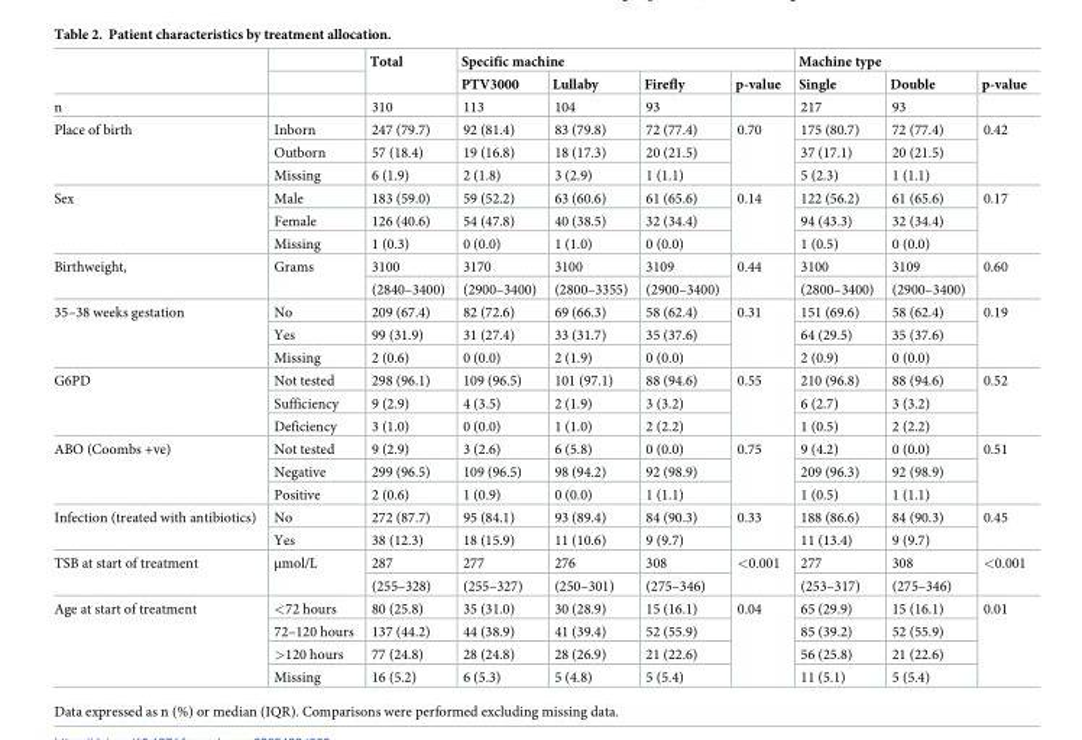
<table><thead><tr><td rowspan="2"></td><td rowspan="2"></td><td rowspan="2">Total</td><td colspan="4">Specific machine</td><td colspan="3">Machine type</td></tr><tr><td>PTV3000</td><td>Lullaby</td><td>Firefly</td><td>p-value</td><td>Single</td><td>Double</td><td>p-value</td></tr></thead><tbody><tr><td>n</td><td></td><td>310</td><td>113</td><td>104</td><td>93</td><td></td><td>217</td><td>93</td><td></td></tr><tr><td rowspan="3">Place of birth</td><td>Inborn</td><td>247 (79.7)</td><td>92 (81.4)</td><td>83 (79.8)</td><td>72 (77.4)</td><td rowspan="3">0.70</td><td>175 (80.7)</td><td>72 (77.4)</td><td rowspan="3">0.42</td></tr><tr><td>Outborn</td><td>57 (18.4)</td><td>19 (16.8)</td><td>18 (17.3)</td><td>20 (21.5)</td><td>37 (17.1)</td><td>20 (21.5)</td></tr><tr><td>Missing</td><td>6 (1.9)</td><td>2 (1.8)</td><td>3 (2.9)</td><td>1 (1.1)</td><td>5 (2.3)</td><td>1 (1.1)</td></tr><tr><td rowspan="3">Sex</td><td>Male</td><td>183 (59.0)</td><td>59 (52.2)</td><td>63 (60.6)</td><td>61 (65.6)</td><td rowspan="3">0.14</td><td>122 (56.2)</td><td>61 (65.6)</td><td rowspan="3">0.17</td></tr><tr><td>Female</td><td>126 (40.6)</td><td>54 (47.8)</td><td>40 (38.5)</td><td>32 (34.4)</td><td>94 (43.3)</td><td>32 (34.4)</td></tr><tr><td>Missing</td><td>1 (0.3)</td><td>0 (0.0)</td><td>1 (1.0)</td><td>0 (0.0)</td><td>1 (0.5)</td><td>0 (0.0)</td></tr><tr><td rowspan="2">Birthweight,</td><td rowspan="2">Grams</td><td>3100</td><td>3170</td><td>3100</td><td>3109</td><td rowspan="2">0.44</td><td>3100</td><td>3109</td><td rowspan="2">0.60</td></tr><tr><td>(2840–3400)</td><td>(2900–3400)</td><td>(2800–3355)</td><td>(2900–3400)</td><td>(2800–3400)</td><td>(2900–3400)</td></tr><tr><td rowspan="3">35–38 weeks gestation</td><td>No</td><td>209 (67.4)</td><td>82 (72.6)</td><td>69 (66.3)</td><td>58 (62.4)</td><td rowspan="3">0.31</td><td>151 (69.6)</td><td>58 (62.4)</td><td rowspan="3">0.19</td></tr><tr><td>Yes</td><td>99 (31.9)</td><td>31 (27.4)</td><td>33 (31.7)</td><td>35 (37.6)</td><td>64 (29.5)</td><td>35 (37.6)</td></tr><tr><td>Missing</td><td>2 (0.6)</td><td>0 (0.0)</td><td>2 (1.9)</td><td>0 (0.0)</td><td>2 (0.9)</td><td>0 (0.0)</td></tr><tr><td rowspan="3">G6PD</td><td>Not tested</td><td>298 (96.1)</td><td>109 (96.5)</td><td>101 (97.1)</td><td>88 (94.6)</td><td rowspan="3">0.55</td><td>210 (96.8)</td><td>88 (94.6)</td><td rowspan="3">0.52</td></tr><tr><td>Sufficiency</td><td>9 (2.9)</td><td>4 (3.5)</td><td>2 (1.9)</td><td>3 (3.2)</td><td>6 (2.7)</td><td>3 (3.2)</td></tr><tr><td>Deficiency</td><td>3 (1.0)</td><td>0 (0.0)</td><td>1 (1.0)</td><td>2 (2.2)</td><td>1 (0.5)</td><td>2 (2.2)</td></tr><tr><td rowspan="3">ABO (Coombs +ve)</td><td>Not tested</td><td>9 (2.9)</td><td>3 (2.6)</td><td>6 (5.8)</td><td>0 (0.0)</td><td rowspan="3">0.75</td><td>9 (4.2)</td><td>0 (0.0)</td><td rowspan="3">0.51</td></tr><tr><td>Negative</td><td>299 (96.5)</td><td>109 (96.5)</td><td>98 (94.2)</td><td>92 (98.9)</td><td>209 (96.3)</td><td>92 (98.9)</td></tr><tr><td>Positive</td><td>2 (0.6)</td><td>1 (0.9)</td><td>0 (0.0)</td><td>1 (1.1)</td><td>1 (0.5)</td><td>1 (1.1)</td></tr><tr><td rowspan="2">Infection (treated with antibiotics)</td><td>No</td><td>272 (87.7)</td><td>95 (84.1)</td><td>93 (89.4)</td><td>84 (90.3)</td><td rowspan="2">0.33</td><td>188 (86.6)</td><td>84 (90.3)</td><td rowspan="2">0.45</td></tr><tr><td>Yes</td><td>38 (12.3)</td><td>18 (15.9)</td><td>11 (10.6)</td><td>9 (9.7)</td><td>11 (13.4)</td><td>9 (9.7)</td></tr><tr><td rowspan="2">TSB at start of treatment</td><td rowspan="2">μmol/L</td><td>287</td><td>277</td><td>276</td><td>308</td><td rowspan="2">&lt;0.001</td><td>277</td><td>308</td><td rowspan="2">&lt;0.001</td></tr><tr><td>(255–328)</td><td>(255–327)</td><td>(250–301)</td><td>(275–346)</td><td>(253–317)</td><td>(275–346)</td></tr><tr><td rowspan="4">Age at start of treatment</td><td>&lt;72 hours</td><td>80 (25.8)</td><td>35 (31.0)</td><td>30 (28.9)</td><td>15 (16.1)</td><td rowspan="4">0.04</td><td>65 (29.9)</td><td>15 (16.1)</td><td rowspan="4">0.01</td></tr><tr><td>72–120 hours</td><td>137 (44.2)</td><td>44 (38.9)</td><td>41 (39.4)</td><td>52 (55.9)</td><td>85 (39.2)</td><td>52 (55.9)</td></tr><tr><td>&gt;120 hours</td><td>77 (24.8)</td><td>28 (24.8)</td><td>28 (26.9)</td><td>21 (22.6)</td><td>56 (25.8)</td><td>21 (22.6)</td></tr><tr><td>Missing</td><td>16 (5.2)</td><td>6 (5.3)</td><td>5 (4.8)</td><td>5 (5.4)</td><td>11 (5.1)</td><td>5 (5.4)</td></tr></tbody></table>